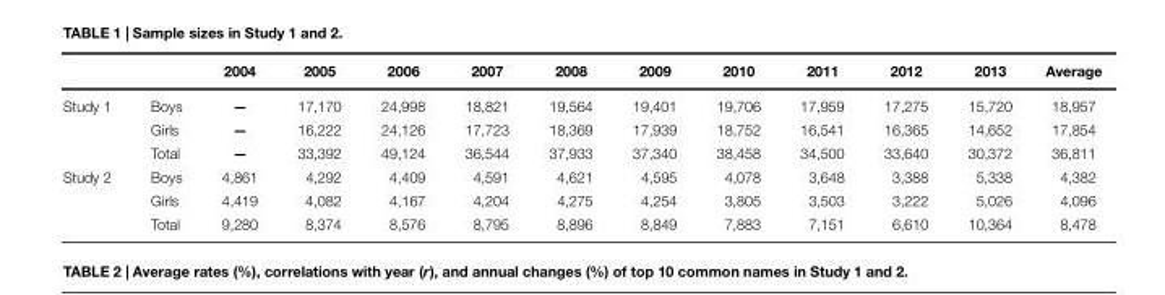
<table><thead><tr><td></td><td></td><td>2004</td><td>2005</td><td>2006</td><td>2007</td><td>2008</td><td>2009</td><td>2010</td><td>2011</td><td>2012</td><td>2013</td><td>Average</td></tr></thead><tbody><tr><td rowspan="3">Study 1</td><td>Boys</td><td>—</td><td>17,170</td><td>24,998</td><td>18,821</td><td>19,564</td><td>19,401</td><td>19,706</td><td>17,959</td><td>17,275</td><td>15,720</td><td>18,957</td></tr><tr><td>Girls</td><td>—</td><td>16,222</td><td>24,126</td><td>17,723</td><td>18,369</td><td>17,939</td><td>18,752</td><td>16,541</td><td>16,365</td><td>14,652</td><td>17,854</td></tr><tr><td>Total</td><td>—</td><td>33,392</td><td>49,124</td><td>36,544</td><td>37,933</td><td>37,340</td><td>38,458</td><td>34,500</td><td>33,640</td><td>30,372</td><td>36,811</td></tr><tr><td rowspan="3">Study 2</td><td>Boys</td><td>4,861</td><td>4,292</td><td>4,409</td><td>4,591</td><td>4,621</td><td>4,595</td><td>4,078</td><td>3,648</td><td>3,388</td><td>5,338</td><td>4,382</td></tr><tr><td>Girls</td><td>4,419</td><td>4,082</td><td>4,167</td><td>4,204</td><td>4,275</td><td>4,254</td><td>3,805</td><td>3,503</td><td>3,222</td><td>5,026</td><td>4,096</td></tr><tr><td>Total</td><td>9,280</td><td>8,374</td><td>8,576</td><td>8,795</td><td>8,896</td><td>8,849</td><td>7,883</td><td>7,151</td><td>6,610</td><td>10,364</td><td>8,478</td></tr></tbody></table>